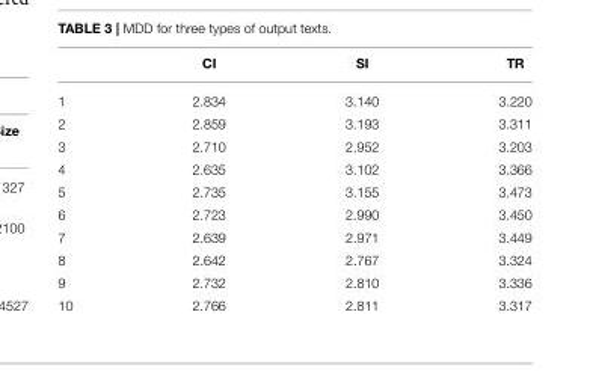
<table><thead><tr><td></td><td>CI</td><td>SI</td><td>TR</td></tr></thead><tbody><tr><td>1</td><td>2.834</td><td>3.140</td><td>3.220</td></tr><tr><td>2</td><td>2.859</td><td>3.193</td><td>3.311</td></tr><tr><td>3</td><td>2.710</td><td>2.952</td><td>3.203</td></tr><tr><td>4</td><td>2.635</td><td>3.102</td><td>3.366</td></tr><tr><td>5</td><td>2.735</td><td>3.155</td><td>3.473</td></tr><tr><td>6</td><td>2.723</td><td>2.990</td><td>3.450</td></tr><tr><td>7</td><td>2.639</td><td>2.971</td><td>3.449</td></tr><tr><td>8</td><td>2.642</td><td>2.767</td><td>3.324</td></tr><tr><td>9</td><td>2.732</td><td>2.810</td><td>3.336</td></tr><tr><td>10</td><td>2.766</td><td>2.811</td><td>3.317</td></tr></tbody></table>